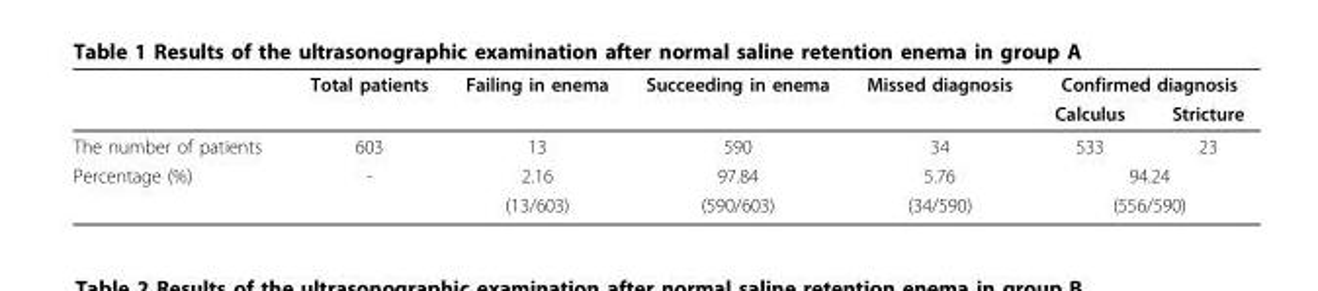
<table><thead><tr><td rowspan="2"></td><td rowspan="2">Total patients</td><td rowspan="2">Failing in enema</td><td rowspan="2">Succeeding in enema</td><td rowspan="2">Missed diagnosis</td><td colspan="2">Confirmed diagnosis</td></tr><tr><td>Calculus</td><td>Stricture</td></tr></thead><tbody><tr><td>The number of patients</td><td>603</td><td>13</td><td>590</td><td>34</td><td>533</td><td>23</td></tr><tr><td rowspan="2">Percentage (%)</td><td>-</td><td>2.16</td><td>97.84</td><td>5.76</td><td colspan="2">94.24</td></tr><tr><td></td><td>(13/603)</td><td>(590/603)</td><td>(34/590)</td><td colspan="2">(556/590)</td></tr></tbody></table>